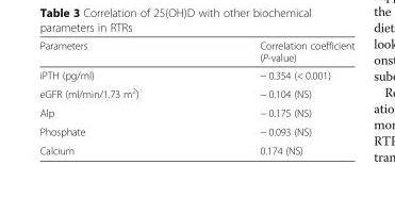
<table><thead><tr><td>Parameters</td><td>Correlation coefficient (P-value)</td></tr></thead><tbody><tr><td>iPTH (pg/ml)</td><td>− 0.354 (&lt; 0.001)</td></tr><tr><td>eGFR (ml/min/1.73 m<sup>2</sup>)</td><td>− 0.104 (NS)</td></tr><tr><td>Alp</td><td>− 0.175 (NS)</td></tr><tr><td>Phosphate</td><td>− 0.093 (NS)</td></tr><tr><td>Calcium</td><td>0.174 (NS)</td></tr></tbody></table>